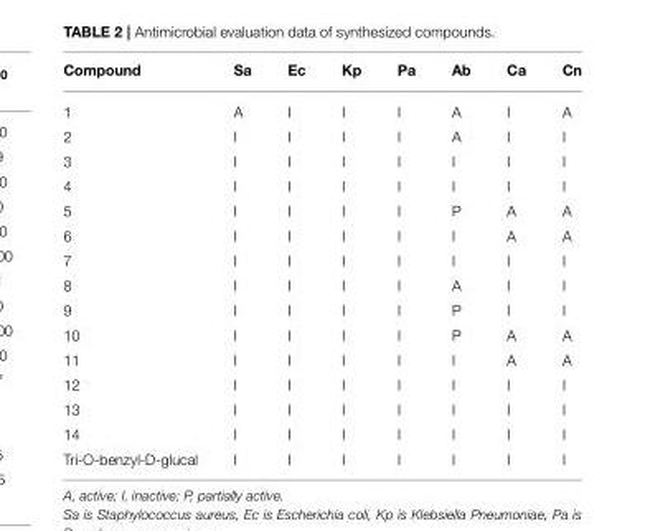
<table><thead><tr><td>Compound</td><td>Sa</td><td>Ec</td><td>Kp</td><td>Pa</td><td>Ab</td><td>Ca</td><td>Cn</td></tr></thead><tbody><tr><td>1</td><td>A</td><td>I</td><td>I</td><td>I</td><td>A</td><td>I</td><td>A</td></tr><tr><td>2</td><td>I</td><td>I</td><td>I</td><td>I</td><td>A</td><td>I</td><td>I</td></tr><tr><td>3</td><td>I</td><td>I</td><td>I</td><td>I</td><td>I</td><td>I</td><td>I</td></tr><tr><td>4</td><td>I</td><td>I</td><td>I</td><td>I</td><td>I</td><td>I</td><td>I</td></tr><tr><td>5</td><td>I</td><td>I</td><td>I</td><td>I</td><td>P</td><td>A</td><td>A</td></tr><tr><td>6</td><td>I</td><td>I</td><td>I</td><td>I</td><td>I</td><td>A</td><td>A</td></tr><tr><td>7</td><td>I</td><td>I</td><td>I</td><td>I</td><td>I</td><td>I</td><td>I</td></tr><tr><td>8</td><td>I</td><td>I</td><td>I</td><td>I</td><td>A</td><td>I</td><td>I</td></tr><tr><td>9</td><td>I</td><td>I</td><td>I</td><td>I</td><td>P</td><td>I</td><td>I</td></tr><tr><td>10</td><td>I</td><td>I</td><td>I</td><td>I</td><td>P</td><td>A</td><td>A</td></tr><tr><td>11</td><td>I</td><td>I</td><td>I</td><td>I</td><td>I</td><td>A</td><td>A</td></tr><tr><td>12</td><td>I</td><td>I</td><td>I</td><td>I</td><td>I</td><td>I</td><td>I</td></tr><tr><td>13</td><td>I</td><td>I</td><td>I</td><td>I</td><td>I</td><td>I</td><td>I</td></tr><tr><td>14</td><td>I</td><td>I</td><td>I</td><td>I</td><td>I</td><td>I</td><td>I</td></tr><tr><td>Tri-O-benzyl-D-glucal</td><td>I</td><td>I</td><td>I</td><td>I</td><td>I</td><td>I</td><td>I</td></tr></tbody></table>